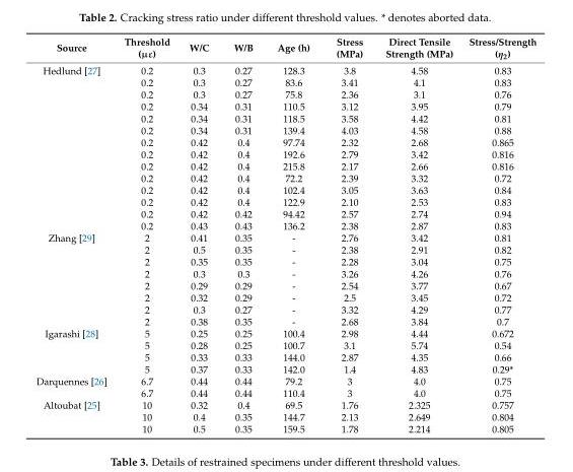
<table><thead><tr><td>Source</td><td>Threshold (µε)</td><td>W/C</td><td>W/B</td><td>Age (h)</td><td>Stress (MPa)</td><td>Direct Tensile Strength (MPa)</td><td>Stress/Strength (η<sub>2</sub>)</td></tr></thead><tbody><tr><td rowspan="14">Hedlund [27]</td><td>0.2</td><td>0.3</td><td>0.27</td><td>128.3</td><td>3.8</td><td>4.58</td><td>0.83</td></tr><tr><td>0.2</td><td>0.3</td><td>0.27</td><td>83.6</td><td>3.41</td><td>4.1</td><td>0.83</td></tr><tr><td>0.2</td><td>0.3</td><td>0.27</td><td>75.8</td><td>2.36</td><td>3.1</td><td>0.76</td></tr><tr><td>0.2</td><td>0.34</td><td>0.31</td><td>110.5</td><td>3.12</td><td>3.95</td><td>0.79</td></tr><tr><td>0.2</td><td>0.34</td><td>0.31</td><td>118.5</td><td>3.58</td><td>4.42</td><td>0.81</td></tr><tr><td>0.2</td><td>0.34</td><td>0.31</td><td>139.4</td><td>4.03</td><td>4.58</td><td>0.88</td></tr><tr><td>0.2</td><td>0.42</td><td>0.4</td><td>97.74</td><td>2.32</td><td>2.68</td><td>0.865</td></tr><tr><td>0.2</td><td>0.42</td><td>0.4</td><td>192.6</td><td>2.79</td><td>3.42</td><td>0.816</td></tr><tr><td>0.2</td><td>0.42</td><td>0.4</td><td>215.8</td><td>2.17</td><td>2.66</td><td>0.816</td></tr><tr><td>0.2</td><td>0.42</td><td>0.4</td><td>72.2</td><td>2.39</td><td>3.32</td><td>0.72</td></tr><tr><td>0.2</td><td>0.42</td><td>0.4</td><td>102.4</td><td>3.05</td><td>3.63</td><td>0.84</td></tr><tr><td>0.2</td><td>0.42</td><td>0.4</td><td>122.9</td><td>2.10</td><td>2.53</td><td>0.83</td></tr><tr><td>0.2</td><td>0.42</td><td>0.42</td><td>94.42</td><td>2.57</td><td>2.74</td><td>0.94</td></tr><tr><td>0.2</td><td>0.43</td><td>0.43</td><td>136.2</td><td>2.38</td><td>2.87</td><td>0.83</td></tr><tr><td rowspan="8">Zhang [29]</td><td>2</td><td>0.41</td><td>0.35</td><td>-</td><td>2.76</td><td>3.42</td><td>0.81</td></tr><tr><td>2</td><td>0.5</td><td>0.35</td><td>-</td><td>2.38</td><td>2.91</td><td>0.82</td></tr><tr><td>2</td><td>0.35</td><td>0.35</td><td>-</td><td>2.28</td><td>3.04</td><td>0.75</td></tr><tr><td>2</td><td>0.3</td><td>0.3</td><td>-</td><td>3.26</td><td>4.26</td><td>0.76</td></tr><tr><td>2</td><td>0.29</td><td>0.29</td><td>-</td><td>2.54</td><td>3.77</td><td>0.67</td></tr><tr><td>2</td><td>0.32</td><td>0.29</td><td>-</td><td>2.5</td><td>3.45</td><td>0.72</td></tr><tr><td>2</td><td>0.3</td><td>0.27</td><td>-</td><td>3.32</td><td>4.29</td><td>0.77</td></tr><tr><td>2</td><td>0.38</td><td>0.35</td><td>-</td><td>2.68</td><td>3.84</td><td>0.7</td></tr><tr><td rowspan="4">Igarashi [28]</td><td>5</td><td>0.25</td><td>0.25</td><td>100.4</td><td>2.98</td><td>4.44</td><td>0.672</td></tr><tr><td>5</td><td>0.28</td><td>0.25</td><td>100.7</td><td>3.1</td><td>5.74</td><td>0.54</td></tr><tr><td>5</td><td>0.33</td><td>0.33</td><td>144.0</td><td>2.87</td><td>4.35</td><td>0.66</td></tr><tr><td>5</td><td>0.37</td><td>0.33</td><td>142.0</td><td>1.4</td><td>4.83</td><td>0.29*</td></tr><tr><td rowspan="2">Darquennes [26]</td><td>6.7</td><td>0.44</td><td>0.44</td><td>79.2</td><td>3</td><td>4.0</td><td>0.75</td></tr><tr><td>6.7</td><td>0.44</td><td>0.44</td><td>110.4</td><td>3</td><td>4.0</td><td>0.75</td></tr><tr><td rowspan="3">Altoubat [25]</td><td>10</td><td>0.32</td><td>0.4</td><td>69.5</td><td>1.76</td><td>2.325</td><td>0.757</td></tr><tr><td>10</td><td>0.4</td><td>0.35</td><td>144.7</td><td>2.13</td><td>2.649</td><td>0.804</td></tr><tr><td>10</td><td>0.5</td><td>0.35</td><td>159.5</td><td>1.78</td><td>2.214</td><td>0.805</td></tr></tbody></table>